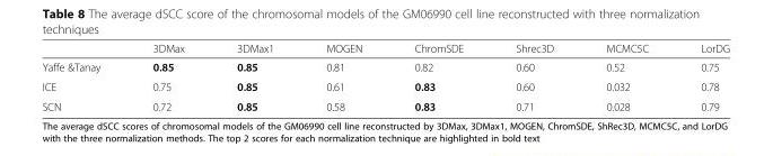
<table><thead><tr><td></td><td>3DMax</td><td>3DMax1</td><td>MOGEN</td><td>ChromSDE</td><td>Shrec3D</td><td>MCMC5C</td><td>LorDG</td></tr></thead><tbody><tr><td>Yaffe &amp;Tanay</td><td>0.85</td><td>0.85</td><td>0.81</td><td>0.82</td><td>0.60</td><td>0.52</td><td>0.75</td></tr><tr><td>ICE</td><td>0.75</td><td>0.85</td><td>0.61</td><td>0.83</td><td>0.60</td><td>0.032</td><td>0.78</td></tr><tr><td>SCN</td><td>0.72</td><td>0.85</td><td>0.58</td><td>0.83</td><td>0.71</td><td>0.028</td><td>0.79</td></tr></tbody></table>